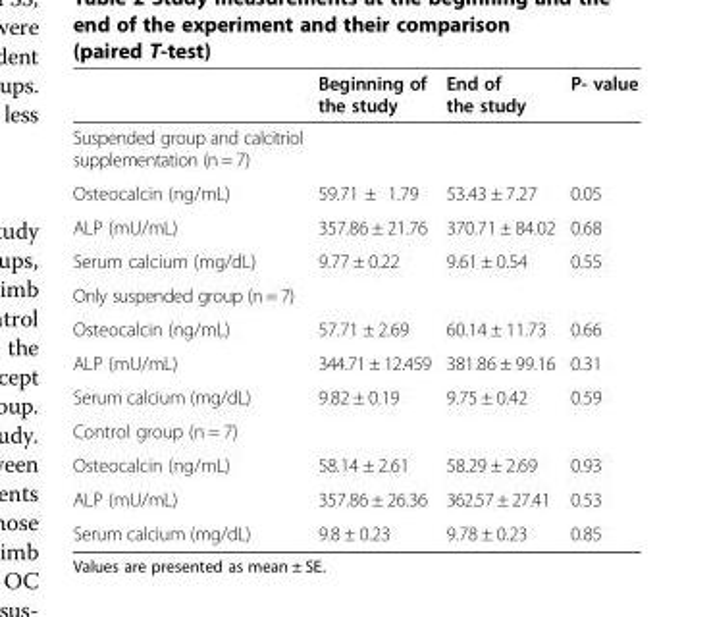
<table><thead><tr><td></td><td>Beginning of the study</td><td>End of the study</td><td>P- value</td></tr></thead><tbody><tr><td colspan="4">Suspended group and calcitriol supplementation (n = 7)</td></tr><tr><td>Osteocalcin (ng/mL)</td><td>59.71 ± 1.79</td><td>53.43 ± 7.27</td><td>0.05</td></tr><tr><td>ALP (mU/mL)</td><td>357.86 ± 21.76</td><td>370.71 ± 84.02</td><td>0.68</td></tr><tr><td>Serum calcium (mg/dL)</td><td>9.77 ± 0.22</td><td>9.61 ± 0.54</td><td>0.55</td></tr><tr><td colspan="4">Only suspended group (n = 7)</td></tr><tr><td>Osteocalcin (ng/mL)</td><td>57.71 ± 2.69</td><td>60.14 ± 11.73</td><td>0.66</td></tr><tr><td>ALP (mU/mL)</td><td>344.71 ± 12.459</td><td>381.86 ± 99.16</td><td>0.31</td></tr><tr><td>Serum calcium (mg/dL)</td><td>9.82 ± 0.19</td><td>9.75 ± 0.42</td><td>0.59</td></tr><tr><td colspan="4">Control group (n = 7)</td></tr><tr><td>Osteocalcin (ng/mL)</td><td>58.14 ± 2.61</td><td>58.29 ± 2.69</td><td>0.93</td></tr><tr><td>ALP (mU/mL)</td><td>357.86 ± 26.36</td><td>362.57 ± 27.41</td><td>0.53</td></tr><tr><td>Serum calcium (mg/dL)</td><td>9.8 ± 0.23</td><td>9.78 ± 0.23</td><td>0.85</td></tr></tbody></table>